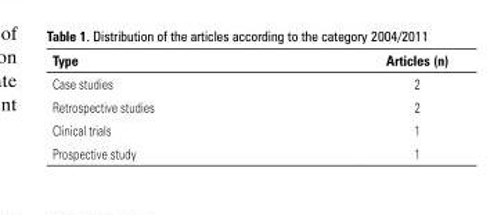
<table><thead><tr><td>Type</td><td>Articles (n)</td></tr></thead><tbody><tr><td>Case studies</td><td>2</td></tr><tr><td>Retrospective studies</td><td>2</td></tr><tr><td>Clinical trials</td><td>1</td></tr><tr><td>Prospective study</td><td>1</td></tr></tbody></table>